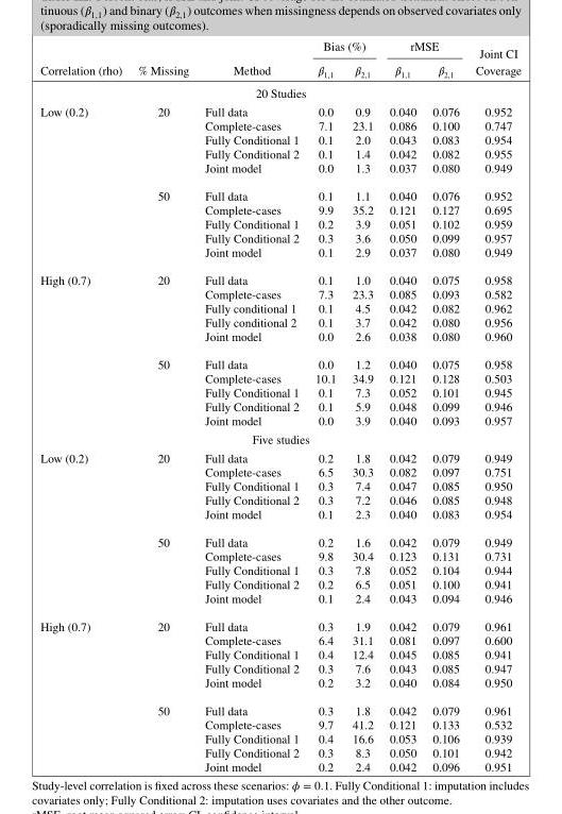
<table><thead><tr><td rowspan="2">Correlation (rho)</td><td rowspan="2">% Missing</td><td rowspan="2">Method</td><td colspan="2">Bias (%)</td><td colspan="2">rMSE</td><td rowspan="2">Joint CI Coverage</td></tr><tr><td>𝛽<sub>1,1</sub></td><td>𝛽<sub>2,1</sub></td><td>𝛽<sub>1,1</sub></td><td>𝛽<sub>2,1</sub></td></tr></thead><tbody><tr><td colspan="8">20 Studies</td></tr><tr><td rowspan="10">Low (0.2)</td><td>20</td><td>Full data</td><td>0.0</td><td>0.9</td><td>0.040</td><td>0.076</td><td>0.952</td></tr><tr><td></td><td>Complete-cases</td><td>7.1</td><td>23.1</td><td>0.086</td><td>0.100</td><td>0.747</td></tr><tr><td></td><td>Fully Conditional 1</td><td>0.1</td><td>2.0</td><td>0.043</td><td>0.083</td><td>0.954</td></tr><tr><td></td><td>Fully Conditional 2</td><td>0.1</td><td>1.4</td><td>0.042</td><td>0.082</td><td>0.955</td></tr><tr><td></td><td>Joint model</td><td>0.0</td><td>1.3</td><td>0.037</td><td>0.080</td><td>0.949</td></tr><tr><td>50</td><td>Full data</td><td>0.1</td><td>1.1</td><td>0.040</td><td>0.076</td><td>0.952</td></tr><tr><td></td><td>Complete-cases</td><td>9.9</td><td>35.2</td><td>0.121</td><td>0.127</td><td>0.695</td></tr><tr><td></td><td>Fully Conditional 1</td><td>0.2</td><td>3.9</td><td>0.051</td><td>0.102</td><td>0.959</td></tr><tr><td></td><td>Fully Conditional 2</td><td>0.3</td><td>3.6</td><td>0.050</td><td>0.099</td><td>0.957</td></tr><tr><td></td><td>Joint model</td><td>0.1</td><td>2.9</td><td>0.037</td><td>0.080</td><td>0.949</td></tr><tr><td rowspan="10">High (0.7)</td><td>20</td><td>Full data</td><td>0.1</td><td>1.0</td><td>0.040</td><td>0.075</td><td>0.958</td></tr><tr><td></td><td>Complete-cases</td><td>7.3</td><td>23.3</td><td>0.085</td><td>0.093</td><td>0.582</td></tr><tr><td></td><td>Fully conditional 1</td><td>0.1</td><td>4.5</td><td>0.042</td><td>0.082</td><td>0.962</td></tr><tr><td></td><td>Fully conditional 2</td><td>0.1</td><td>3.7</td><td>0.042</td><td>0.080</td><td>0.956</td></tr><tr><td></td><td>Joint model</td><td>0.0</td><td>2.6</td><td>0.038</td><td>0.080</td><td>0.960</td></tr><tr><td>50</td><td>Full data</td><td>0.0</td><td>1.2</td><td>0.040</td><td>0.075</td><td>0.958</td></tr><tr><td></td><td>Complete-cases</td><td>10.1</td><td>34.9</td><td>0.121</td><td>0.128</td><td>0.503</td></tr><tr><td></td><td>Fully Conditional 1</td><td>0.1</td><td>7.3</td><td>0.052</td><td>0.101</td><td>0.945</td></tr><tr><td></td><td>Fully Conditional 2</td><td>0.1</td><td>5.9</td><td>0.048</td><td>0.099</td><td>0.946</td></tr><tr><td></td><td>Joint model</td><td>0.0</td><td>3.9</td><td>0.040</td><td>0.093</td><td>0.957</td></tr><tr><td colspan="8">Five studies</td></tr><tr><td rowspan="10">Low (0.2)</td><td>20</td><td>Full data</td><td>0.2</td><td>1.8</td><td>0.042</td><td>0.079</td><td>0.949</td></tr><tr><td></td><td>Complete-cases</td><td>6.5</td><td>30.3</td><td>0.082</td><td>0.097</td><td>0.751</td></tr><tr><td></td><td>Fully Conditional 1</td><td>0.3</td><td>7.4</td><td>0.047</td><td>0.085</td><td>0.950</td></tr><tr><td></td><td>Fully Conditional 2</td><td>0.3</td><td>7.2</td><td>0.046</td><td>0.085</td><td>0.948</td></tr><tr><td></td><td>Joint model</td><td>0.1</td><td>2.3</td><td>0.040</td><td>0.083</td><td>0.954</td></tr><tr><td>50</td><td>Full data</td><td>0.2</td><td>1.6</td><td>0.042</td><td>0.079</td><td>0.949</td></tr><tr><td></td><td>Complete-cases</td><td>9.8</td><td>30.4</td><td>0.123</td><td>0.131</td><td>0.731</td></tr><tr><td></td><td>Fully Conditional 1</td><td>0.3</td><td>7.8</td><td>0.052</td><td>0.104</td><td>0.944</td></tr><tr><td></td><td>Fully Conditional 2</td><td>0.2</td><td>6.5</td><td>0.051</td><td>0.100</td><td>0.941</td></tr><tr><td></td><td>Joint model</td><td>0.1</td><td>2.4</td><td>0.043</td><td>0.094</td><td>0.946</td></tr><tr><td rowspan="10">High (0.7)</td><td>20</td><td>Full data</td><td>0.3</td><td>1.9</td><td>0.042</td><td>0.079</td><td>0.961</td></tr><tr><td></td><td>Complete-cases</td><td>6.4</td><td>31.1</td><td>0.081</td><td>0.097</td><td>0.600</td></tr><tr><td></td><td>Fully Conditional 1</td><td>0.4</td><td>12.4</td><td>0.045</td><td>0.085</td><td>0.941</td></tr><tr><td></td><td>Fully Conditional 2</td><td>0.3</td><td>7.6</td><td>0.043</td><td>0.085</td><td>0.947</td></tr><tr><td></td><td>Joint model</td><td>0.2</td><td>3.2</td><td>0.040</td><td>0.084</td><td>0.950</td></tr><tr><td>50</td><td>Full data</td><td>0.3</td><td>1.8</td><td>0.042</td><td>0.079</td><td>0.961</td></tr><tr><td></td><td>Complete-cases</td><td>9.7</td><td>41.2</td><td>0.121</td><td>0.133</td><td>0.532</td></tr><tr><td></td><td>Fully Conditional 1</td><td>0.4</td><td>16.6</td><td>0.053</td><td>0.106</td><td>0.939</td></tr><tr><td></td><td>Fully Conditional 2</td><td>0.3</td><td>8.3</td><td>0.050</td><td>0.101</td><td>0.942</td></tr><tr><td></td><td>Joint model</td><td>0.2</td><td>2.4</td><td>0.042</td><td>0.096</td><td>0.951</td></tr></tbody></table>